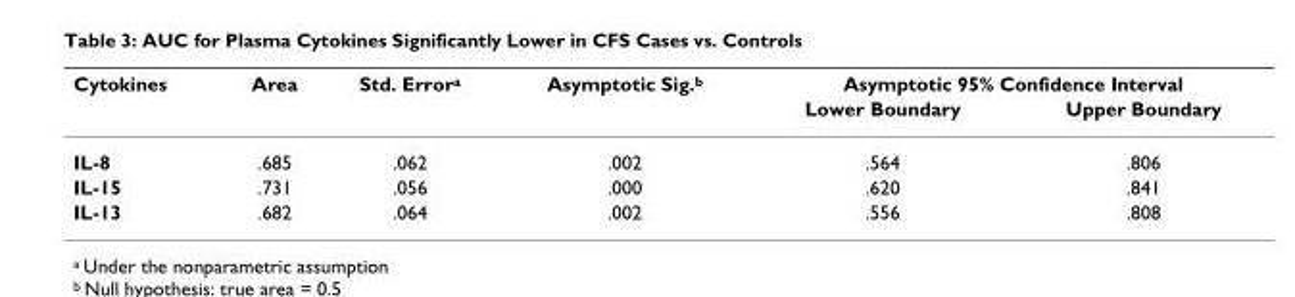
<table><thead><tr><td rowspan="2">Cytokines</td><td rowspan="2">Area</td><td rowspan="2">Std. Error<sup>a</sup></td><td rowspan="2">Asymptotic Sig.<sup>b</sup></td><td colspan="2">Asymptotic 95% Confidence Interval</td></tr><tr><td>Lower Boundary</td><td>Upper Boundary</td></tr></thead><tbody><tr><td>IL-8</td><td>.685</td><td>.062</td><td>.002</td><td>.564</td><td>.806</td></tr><tr><td>IL-15</td><td>.731</td><td>.056</td><td>.000</td><td>.620</td><td>.841</td></tr><tr><td>IL-13</td><td>.682</td><td>.064</td><td>.002</td><td>.556</td><td>.808</td></tr></tbody></table>